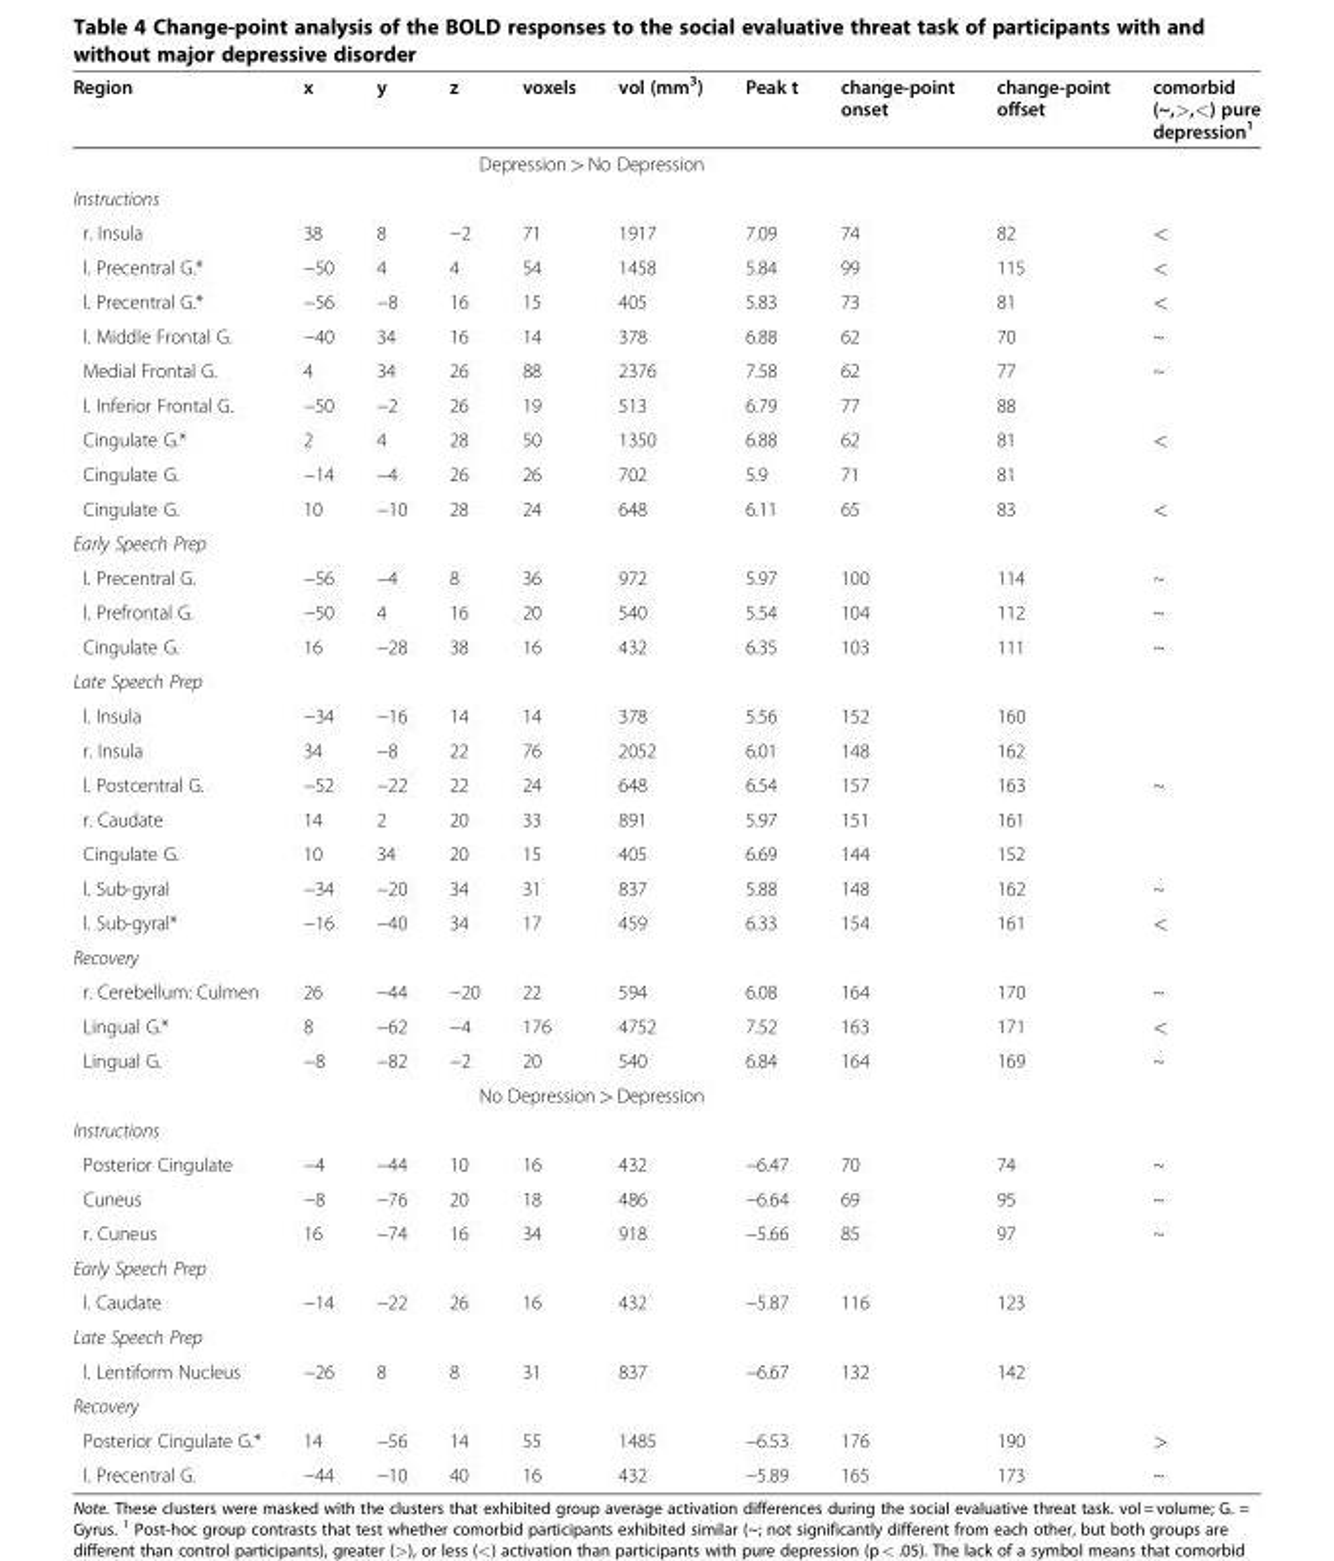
<table><thead><tr><td>Region</td><td>x</td><td>y</td><td>z</td><td>voxels</td><td>vol (mm<sup>3</sup>)</td><td>Peak t</td><td>change-point onset</td><td>change-point offset</td><td>comorbid (~,&gt;,&lt;) pure depression<sup>1</sup></td></tr></thead><tbody><tr><td colspan="10">Depression &gt; No Depression</td></tr><tr><td colspan="10">Instructions</td></tr><tr><td>r. Insula</td><td>38</td><td>8</td><td>−2</td><td>71</td><td>1917</td><td>7.09</td><td>74</td><td>82</td><td>&lt;</td></tr><tr><td>l. Precentral G.*</td><td>−50</td><td>4</td><td>4</td><td>54</td><td>1458</td><td>5.84</td><td>99</td><td>115</td><td>&lt;</td></tr><tr><td>l. Precentral G.*</td><td>−56</td><td>−8</td><td>16</td><td>15</td><td>405</td><td>5.83</td><td>73</td><td>81</td><td>&lt;</td></tr><tr><td>l. Middle Frontal G.</td><td>−40</td><td>34</td><td>16</td><td>14</td><td>378</td><td>6.88</td><td>62</td><td>70</td><td>~</td></tr><tr><td>Medial Frontal G.</td><td>4</td><td>34</td><td>26</td><td>88</td><td>2376</td><td>7.58</td><td>62</td><td>77</td><td>~</td></tr><tr><td>l. Inferior Frontal G.</td><td>−50</td><td>−2</td><td>26</td><td>19</td><td>513</td><td>6.79</td><td>77</td><td>88</td><td></td></tr><tr><td>Cingulate G.*</td><td>2</td><td>4</td><td>28</td><td>50</td><td>1350</td><td>6.88</td><td>62</td><td>81</td><td>&lt;</td></tr><tr><td>Cingulate G.</td><td>−14</td><td>−4</td><td>26</td><td>26</td><td>702</td><td>5.9</td><td>71</td><td>81</td><td></td></tr><tr><td>Cingulate G.</td><td>10</td><td>−10</td><td>28</td><td>24</td><td>648</td><td>6.11</td><td>65</td><td>83</td><td>&lt;</td></tr><tr><td colspan="10">Early Speech Prep</td></tr><tr><td>l. Precentral G.</td><td>−56</td><td>−4</td><td>8</td><td>36</td><td>972</td><td>5.97</td><td>100</td><td>114</td><td>~</td></tr><tr><td>l. Prefrontal G.</td><td>−50</td><td>4</td><td>16</td><td>20</td><td>540</td><td>5.54</td><td>104</td><td>112</td><td>~</td></tr><tr><td>Cingulate G.</td><td>16</td><td>−28</td><td>38</td><td>16</td><td>432</td><td>6.35</td><td>103</td><td>111</td><td>~</td></tr><tr><td colspan="10">Late Speech Prep</td></tr><tr><td>l. Insula</td><td>−34</td><td>−16</td><td>14</td><td>14</td><td>378</td><td>5.56</td><td>152</td><td>160</td><td></td></tr><tr><td>r. Insula</td><td>34</td><td>−8</td><td>22</td><td>76</td><td>2052</td><td>6.01</td><td>148</td><td>162</td><td></td></tr><tr><td>l. Postcentral G.</td><td>−52</td><td>−22</td><td>22</td><td>24</td><td>648</td><td>6.54</td><td>157</td><td>163</td><td>~</td></tr><tr><td>r. Caudate</td><td>14</td><td>2</td><td>20</td><td>33</td><td>891</td><td>5.97</td><td>151</td><td>161</td><td></td></tr><tr><td>Cingulate G.</td><td>10</td><td>34</td><td>20</td><td>15</td><td>405</td><td>6.69</td><td>144</td><td>152</td><td></td></tr><tr><td>l. Sub-gyral</td><td>−34</td><td>−20</td><td>34</td><td>31</td><td>837</td><td>5.88</td><td>148</td><td>162</td><td>~</td></tr><tr><td>l. Sub-gyral*</td><td>−16</td><td>−40</td><td>34</td><td>17</td><td>459</td><td>6.33</td><td>154</td><td>161</td><td>&lt;</td></tr><tr><td colspan="10">Recovery</td></tr><tr><td>r. Cerebellum: Culmen</td><td>26</td><td>−44</td><td>−20</td><td>22</td><td>594</td><td>6.08</td><td>164</td><td>170</td><td>~</td></tr><tr><td>Lingual G.*</td><td>8</td><td>−62</td><td>−4</td><td>176</td><td>4752</td><td>7.52</td><td>163</td><td>171</td><td>&lt;</td></tr><tr><td>Lingual G.</td><td>−8</td><td>−82</td><td>−2</td><td>20</td><td>540</td><td>6.84</td><td>164</td><td>169</td><td>~</td></tr><tr><td colspan="10">No Depression &gt; Depression</td></tr><tr><td colspan="10">Instructions</td></tr><tr><td>Posterior Cingulate</td><td>−4</td><td>−44</td><td>10</td><td>16</td><td>432</td><td>−6.47</td><td>70</td><td>74</td><td>~</td></tr><tr><td>Cuneus</td><td>−8</td><td>−76</td><td>20</td><td>18</td><td>486</td><td>−6.64</td><td>69</td><td>95</td><td>~</td></tr><tr><td>r. Cuneus</td><td>16</td><td>−74</td><td>16</td><td>34</td><td>918</td><td>−5.66</td><td>85</td><td>97</td><td>~</td></tr><tr><td colspan="10">Early Speech Prep</td></tr><tr><td>l. Caudate</td><td>−14</td><td>−22</td><td>26</td><td>16</td><td>432</td><td>−5.87</td><td>116</td><td>123</td><td></td></tr><tr><td colspan="10">Late Speech Prep</td></tr><tr><td>l. Lentiform Nucleus</td><td>−26</td><td>8</td><td>8</td><td>31</td><td>837</td><td>−6.67</td><td>132</td><td>142</td><td></td></tr><tr><td colspan="10">Recovery</td></tr><tr><td>Posterior Cingulate G.*</td><td>14</td><td>−56</td><td>14</td><td>55</td><td>1485</td><td>−6.53</td><td>176</td><td>190</td><td>&gt;</td></tr><tr><td>l. Precentral G.</td><td>−44</td><td>−10</td><td>40</td><td>16</td><td>432</td><td>−5.89</td><td>165</td><td>173</td><td>~</td></tr></tbody></table>